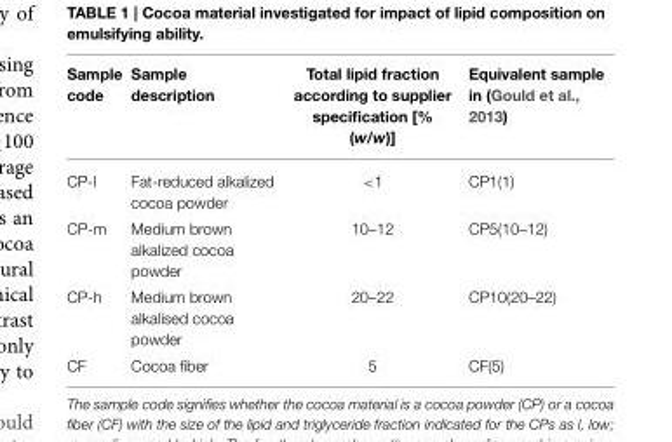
<table><thead><tr><td>Sample code</td><td>Sample description</td><td>Total lipid fraction according to supplier specification [% (w/w)]</td><td>Equivalent sample in (Gould et al., 2013)</td></tr></thead><tbody><tr><td>CP-l</td><td>Fat-reduced alkalized cocoa powder</td><td>&lt;1</td><td>CP1(1)</td></tr><tr><td>CP-m</td><td>Medium brown alkalized cocoa powder</td><td>10–12</td><td>CP5(10–12)</td></tr><tr><td>CP-h</td><td>Medium brown alkalised cocoa powder</td><td>20–22</td><td>CP10(20–22)</td></tr><tr><td>CF</td><td>Cocoa fiber</td><td>5</td><td>CF(5)</td></tr></tbody></table>